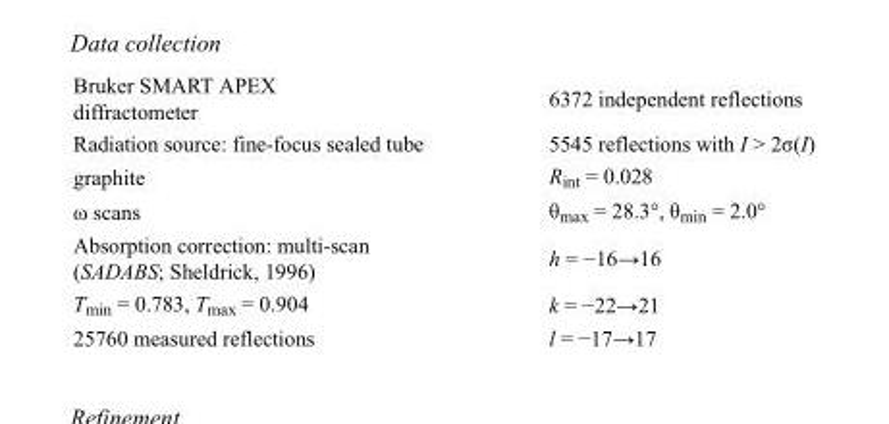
<table><tbody><tr><td>Bruker SMART APEX diffractometer</td><td>6372 independent reflections</td></tr><tr><td>Radiation source: fine-focus sealed tube</td><td>5545 reflections with I &gt; 2σ(I)</td></tr><tr><td>graphite</td><td>R<sub>int</sub> = 0.028</td></tr><tr><td>ω scans</td><td>θ<sub>max</sub> = 28.3°, θ<sub>min</sub> = 2.0°</td></tr><tr><td>Absorption correction: multi-scan (SADABS; Sheldrick, 1996)</td><td>h = −16→16</td></tr><tr><td>T<sub>min</sub> = 0.783, T<sub>max</sub> = 0.904</td><td>k = −22→21</td></tr><tr><td>25760 measured reflections</td><td>l = −17→17</td></tr></tbody></table>